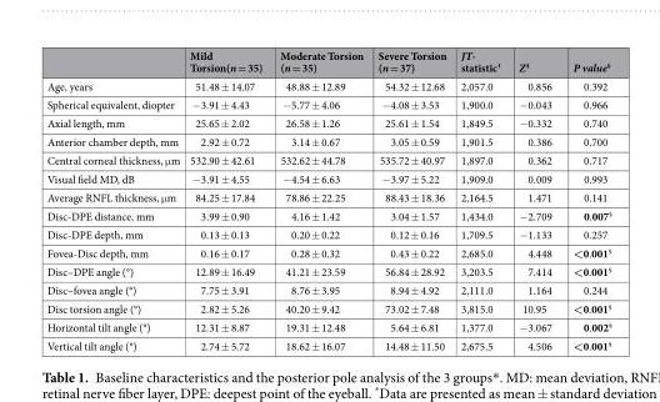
<table><thead><tr><td></td><td>Mild Torsion(n = 35)</td><td>Moderate Torsion (n = 35)</td><td>Severe Torsion (n = 37)</td><td>JT- statistic<sup>†</sup></td><td>Z<sup>‡</sup></td><td>P value<sup>§</sup></td></tr></thead><tbody><tr><td>Age, years</td><td>51.48 ± 14.07</td><td>48.88 ± 12.89</td><td>54.32 ± 12.68</td><td>2,057.0</td><td>0.856</td><td>0.392</td></tr><tr><td>Spherical equivalent, diopter</td><td>−3.91 ± 4.43</td><td>−5.77 ± 4.06</td><td>−4.08 ± 3.53</td><td>1,900.0</td><td>−0.043</td><td>0.966</td></tr><tr><td>Axial length, mm</td><td>25.65 ± 2.02</td><td>26.58 ± 1.26</td><td>25.61 ± 1.54</td><td>1,849.5</td><td>−0.332</td><td>0.740</td></tr><tr><td>Anterior chamber depth, mm</td><td>2.92 ± 0.72</td><td>3.14 ± 0.67</td><td>3.05 ± 0.59</td><td>1,901.5</td><td>0.386</td><td>0.700</td></tr><tr><td>Central corneal thickness, μm</td><td>532.90 ± 42.61</td><td>532.62 ± 44.78</td><td>535.72 ± 40.97</td><td>1,897.0</td><td>0.362</td><td>0.717</td></tr><tr><td>Visual field MD, dB</td><td>−3.91 ± 4.55</td><td>−4.54 ± 6.63</td><td>−3.97 ± 5.22</td><td>1,909.0</td><td>0.009</td><td>0.993</td></tr><tr><td>Average RNFL thickness, μm</td><td>84.25 ± 17.84</td><td>78.86 ± 22.25</td><td>88.43 ± 18.36</td><td>2,164.5</td><td>1.471</td><td>0.141</td></tr><tr><td>Disc-DPE distance, mm</td><td>3.99 ± 0.90</td><td>4.16 ± 1.42</td><td>3.04 ± 1.57</td><td>1,434.0</td><td>−2.709</td><td>0.007<sup>§</sup></td></tr><tr><td>Disc-DPE depth, mm</td><td>0.13 ± 0.13</td><td>0.20 ± 0.22</td><td>0.12 ± 0.16</td><td>1,709.5</td><td>−1.133</td><td>0.257</td></tr><tr><td>Fovea-Disc depth, mm</td><td>0.16 ± 0.17</td><td>0.28 ± 0.32</td><td>0.43 ± 0.22</td><td>2,685.0</td><td>4.448</td><td>&lt;0.001<sup>§</sup></td></tr><tr><td>Disc–DPE angle (°)</td><td>12.89 ± 16.49</td><td>41.21 ± 23.59</td><td>56.84 ± 28.92</td><td>3,203.5</td><td>7.414</td><td>&lt;0.001<sup>§</sup></td></tr><tr><td>Disc–fovea angle (°)</td><td>7.75 ± 3.91</td><td>8.76 ± 3.95</td><td>8.94 ± 4.92</td><td>2,111.0</td><td>1.164</td><td>0.244</td></tr><tr><td>Disc torsion angle (°)</td><td>2.82 ± 5.26</td><td>40.20 ± 9.42</td><td>73.02 ± 7.48</td><td>3,815.0</td><td>10.95</td><td>&lt;0.001<sup>§</sup></td></tr><tr><td>Horizontal tilt angle (°)</td><td>12.31 ± 8.87</td><td>19.31 ± 12.48</td><td>5.64 ± 6.81</td><td>1,377.0</td><td>−3.067</td><td>0.002<sup>§</sup></td></tr><tr><td>Vertical tilt angle (°)</td><td>2.74 ± 5.72</td><td>18.62 ± 16.07</td><td>14.48 ± 11.50</td><td>2,675.5</td><td>4.506</td><td>&lt;0.001<sup>§</sup></td></tr></tbody></table>